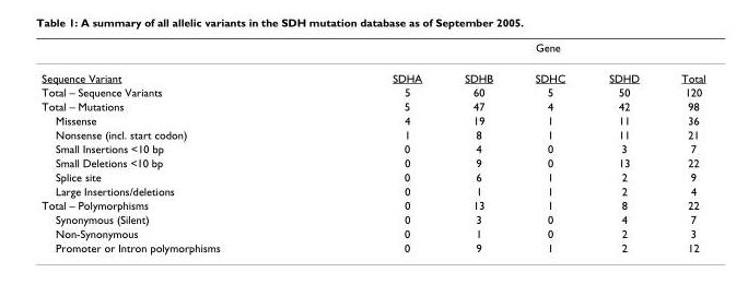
<table><thead><tr><td rowspan="2">Sequence Variant</td><td colspan="5">Gene</td></tr><tr><td>SDHA</td><td>SDHB</td><td>SDHC</td><td>SDHD</td><td>Total</td></tr></thead><tbody><tr><td>Total – Sequence Variants</td><td>5</td><td>60</td><td>5</td><td>50</td><td>120</td></tr><tr><td>Total – Mutations</td><td>5</td><td>47</td><td>4</td><td>42</td><td>98</td></tr><tr><td>Missense</td><td>4</td><td>19</td><td>1</td><td>11</td><td>36</td></tr><tr><td>Nonsense (incl. start codon)</td><td>1</td><td>8</td><td>1</td><td>11</td><td>21</td></tr><tr><td>Small Insertions &lt;10 bp</td><td>0</td><td>4</td><td>0</td><td>3</td><td>7</td></tr><tr><td>Small Deletions &lt;10 bp</td><td>0</td><td>9</td><td>0</td><td>13</td><td>22</td></tr><tr><td>Splice site</td><td>0</td><td>6</td><td>1</td><td>2</td><td>9</td></tr><tr><td>Large Insertions/deletions</td><td>0</td><td>1</td><td>1</td><td>2</td><td>4</td></tr><tr><td>Total – Polymorphisms</td><td>0</td><td>13</td><td>1</td><td>8</td><td>22</td></tr><tr><td>Synonymous (Silent)</td><td>0</td><td>3</td><td>0</td><td>4</td><td>7</td></tr><tr><td>Non-Synonymous</td><td>0</td><td>1</td><td>0</td><td>2</td><td>3</td></tr><tr><td>Promoter or Intron polymorphisms</td><td>0</td><td>9</td><td>1</td><td>2</td><td>12</td></tr></tbody></table>